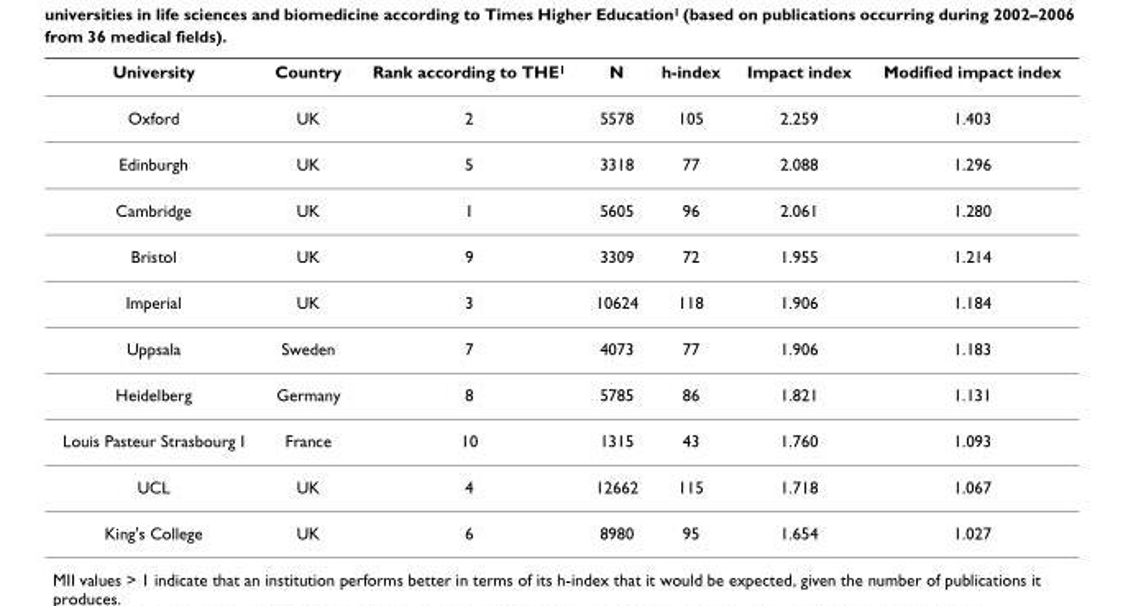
<table><thead><tr><td>University</td><td>Country</td><td>Rank according to THE<sup>1</sup></td><td>N</td><td>h-index</td><td>Impact index</td><td>Modified impact index</td></tr></thead><tbody><tr><td>Oxford</td><td>UK</td><td>2</td><td>5578</td><td>105</td><td>2.259</td><td>1.403</td></tr><tr><td>Edinburgh</td><td>UK</td><td>5</td><td>3318</td><td>77</td><td>2.088</td><td>1.296</td></tr><tr><td>Cambridge</td><td>UK</td><td>1</td><td>5605</td><td>96</td><td>2.061</td><td>1.280</td></tr><tr><td>Bristol</td><td>UK</td><td>9</td><td>3309</td><td>72</td><td>1.955</td><td>1.214</td></tr><tr><td>Imperial</td><td>UK</td><td>3</td><td>10624</td><td>118</td><td>1.906</td><td>1.184</td></tr><tr><td>Uppsala</td><td>Sweden</td><td>7</td><td>4073</td><td>77</td><td>1.906</td><td>1.183</td></tr><tr><td>Heidelberg</td><td>Germany</td><td>8</td><td>5785</td><td>86</td><td>1.821</td><td>1.131</td></tr><tr><td>Louis Pasteur Strasbourg I</td><td>France</td><td>10</td><td>1315</td><td>43</td><td>1.760</td><td>1.093</td></tr><tr><td>UCL</td><td>UK</td><td>4</td><td>12662</td><td>115</td><td>1.718</td><td>1.067</td></tr><tr><td>King&#x27;s College</td><td>UK</td><td>6</td><td>8980</td><td>95</td><td>1.654</td><td>1.027</td></tr></tbody></table>